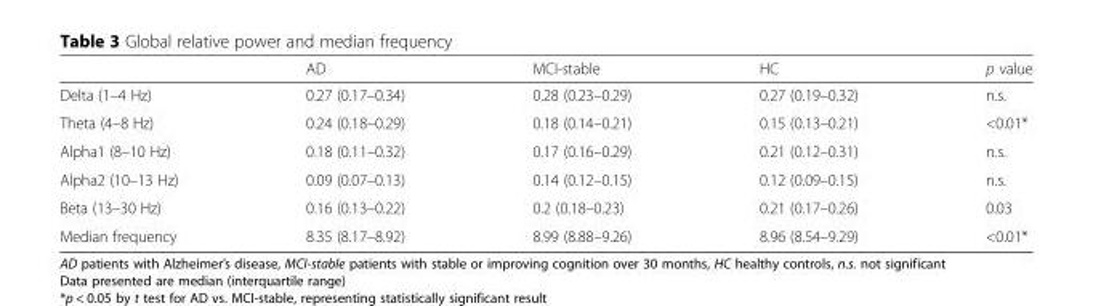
<table><thead><tr><td></td><td>AD</td><td>MCI-stable</td><td>HC</td><td>p value</td></tr></thead><tbody><tr><td>Delta (1–4 Hz)</td><td>0.27 (0.17–0.34)</td><td>0.28 (0.23–0.29)</td><td>0.27 (0.19–0.32)</td><td>n.s.</td></tr><tr><td>Theta (4–8 Hz)</td><td>0.24 (0.18–0.29)</td><td>0.18 (0.14–0.21)</td><td>0.15 (0.13–0.21)</td><td>&lt;0.01*</td></tr><tr><td>Alpha1 (8–10 Hz)</td><td>0.18 (0.11–0.32)</td><td>0.17 (0.16–0.29)</td><td>0.21 (0.12–0.31)</td><td>n.s.</td></tr><tr><td>Alpha2 (10–13 Hz)</td><td>0.09 (0.07–0.13)</td><td>0.14 (0.12–0.15)</td><td>0.12 (0.09–0.15)</td><td>n.s.</td></tr><tr><td>Beta (13–30 Hz)</td><td>0.16 (0.13–0.22)</td><td>0.2 (0.18–0.23)</td><td>0.21 (0.17–0.26)</td><td>0.03</td></tr><tr><td>Median frequency</td><td>8.35 (8.17–8.92)</td><td>8.99 (8.88–9.26)</td><td>8.96 (8.54–9.29)</td><td>&lt;0.01*</td></tr></tbody></table>